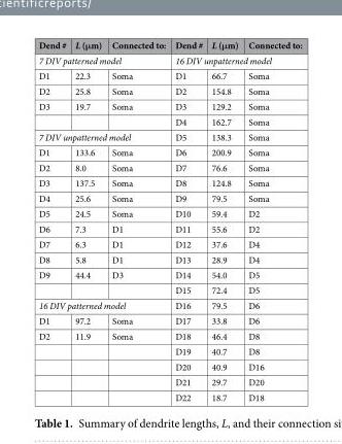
<table><thead><tr><td>Dend #</td><td>L (μm)</td><td>Connected to:</td><td>Dend #</td><td>L (μm)</td><td>Connected to:</td></tr></thead><tbody><tr><td colspan="3">7 DIV patterned model</td><td colspan="3">16 DIV unpatterned model</td></tr><tr><td>D1</td><td>22.3</td><td>Soma</td><td>D1</td><td>66.7</td><td>Soma</td></tr><tr><td>D2</td><td>25.8</td><td>Soma</td><td>D2</td><td>154.8</td><td>Soma</td></tr><tr><td rowspan="2">D3</td><td>19.7</td><td>Soma</td><td>D3</td><td>129.2</td><td>Soma</td></tr><tr><td></td><td></td><td>D4</td><td>162.7</td><td>Soma</td></tr><tr><td colspan="3">7 DIV unpatterned model</td><td>D5</td><td>138.3</td><td>Soma</td></tr><tr><td>D1</td><td>133.6</td><td>Soma</td><td>D6</td><td>200.9</td><td>Soma</td></tr><tr><td>D2</td><td>8.0</td><td>Soma</td><td>D7</td><td>76.6</td><td>Soma</td></tr><tr><td>D3</td><td>137.5</td><td>Soma</td><td>D8</td><td>124.8</td><td>Soma</td></tr><tr><td>D4</td><td>25.6</td><td>Soma</td><td>D9</td><td>79.5</td><td>Soma</td></tr><tr><td>D5</td><td>24.5</td><td>Soma</td><td>D10</td><td>59.4</td><td>D2</td></tr><tr><td>D6</td><td>7.3</td><td>D1</td><td>D11</td><td>55.6</td><td>D2</td></tr><tr><td>D7</td><td>6.3</td><td>D1</td><td>D12</td><td>37.6</td><td>D4</td></tr><tr><td>D8</td><td>5.8</td><td>D1</td><td>D13</td><td>28.9</td><td>D4</td></tr><tr><td rowspan="2">D9</td><td>44.4</td><td>D3</td><td>D14</td><td>54.0</td><td>D5</td></tr><tr><td></td><td></td><td>D15</td><td>72.4</td><td>D5</td></tr><tr><td colspan="3">16 DIV patterned model</td><td>D16</td><td>79.5</td><td>D6</td></tr><tr><td>D1</td><td>97.2</td><td>Soma</td><td>D17</td><td>33.8</td><td>D6</td></tr><tr><td rowspan="5">D2</td><td>11.9</td><td>Soma</td><td>D18</td><td>46.4</td><td>D8</td></tr><tr><td></td><td></td><td>D19</td><td>40.7</td><td>D8</td></tr><tr><td></td><td></td><td>D20</td><td>40.9</td><td>D16</td></tr><tr><td></td><td></td><td>D21</td><td>29.7</td><td>D20</td></tr><tr><td></td><td></td><td>D22</td><td>18.7</td><td>D18</td></tr></tbody></table>